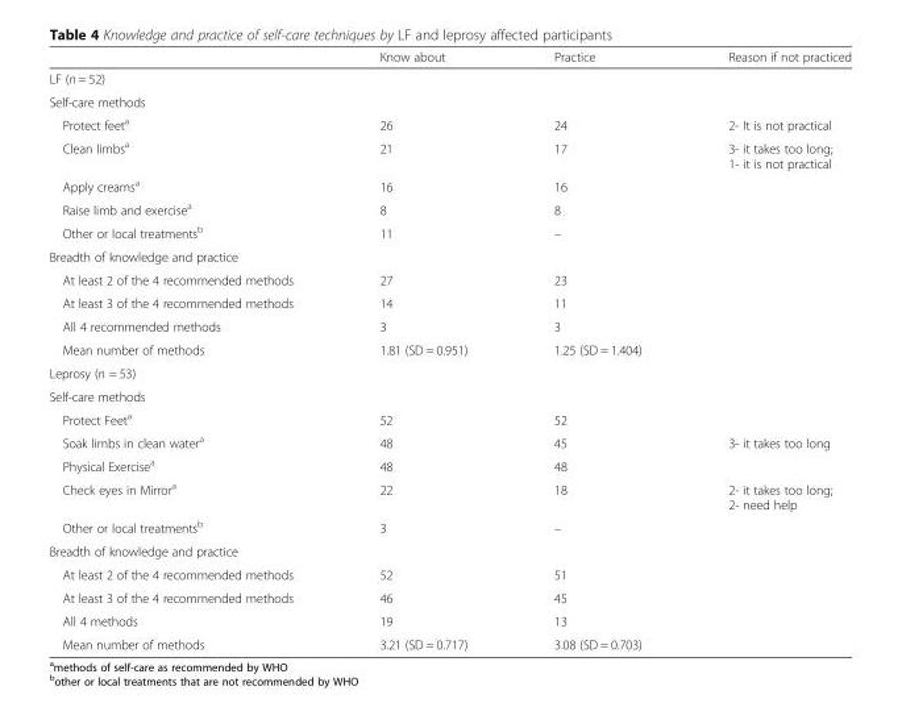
<table><thead><tr><td></td><td>Know about</td><td>Practice</td><td>Reason if not practiced</td></tr></thead><tbody><tr><td colspan="4">LF (n = 52)</td></tr><tr><td colspan="4">Self-care methods</td></tr><tr><td>Protect feet<sup>a</sup></td><td>26</td><td>24</td><td>2- It is not practical</td></tr><tr><td>Clean limbs<sup>a</sup></td><td>21</td><td>17</td><td>3- it takes too long; 1- it is not practical</td></tr><tr><td>Apply creams<sup>a</sup></td><td>16</td><td>16</td><td></td></tr><tr><td>Raise limb and exercise<sup>a</sup></td><td>8</td><td>8</td><td></td></tr><tr><td>Other or local treatments<sup>b</sup></td><td>11</td><td>–</td><td></td></tr><tr><td colspan="4">Breadth of knowledge and practice</td></tr><tr><td>At least 2 of the 4 recommended methods</td><td>27</td><td>23</td><td></td></tr><tr><td>At least 3 of the 4 recommended methods</td><td>14</td><td>11</td><td></td></tr><tr><td>All 4 recommended methods</td><td>3</td><td>3</td><td></td></tr><tr><td>Mean number of methods</td><td>1.81 (SD = 0.951)</td><td>1.25 (SD = 1.404)</td><td></td></tr><tr><td colspan="4">Leprosy (n = 53)</td></tr><tr><td colspan="4">Self-care methods</td></tr><tr><td>Protect Feet<sup>a</sup></td><td>52</td><td>52</td><td></td></tr><tr><td>Soak limbs in clean water<sup>a</sup></td><td>48</td><td>45</td><td>3- it takes too long</td></tr><tr><td>Physical Exercise<sup>a</sup></td><td>48</td><td>48</td><td></td></tr><tr><td>Check eyes in Mirror<sup>a</sup></td><td>22</td><td>18</td><td>2- it takes too long; 2- need help</td></tr><tr><td>Other or local treatments<sup>b</sup></td><td>3</td><td>–</td><td></td></tr><tr><td colspan="4">Breadth of knowledge and practice</td></tr><tr><td>At least 2 of the 4 recommended methods</td><td>52</td><td>51</td><td></td></tr><tr><td>At least 3 of the 4 recommended methods</td><td>46</td><td>45</td><td></td></tr><tr><td>All 4 methods</td><td>19</td><td>13</td><td></td></tr><tr><td>Mean number of methods</td><td>3.21 (SD = 0.717)</td><td>3.08 (SD = 0.703)</td><td></td></tr></tbody></table>